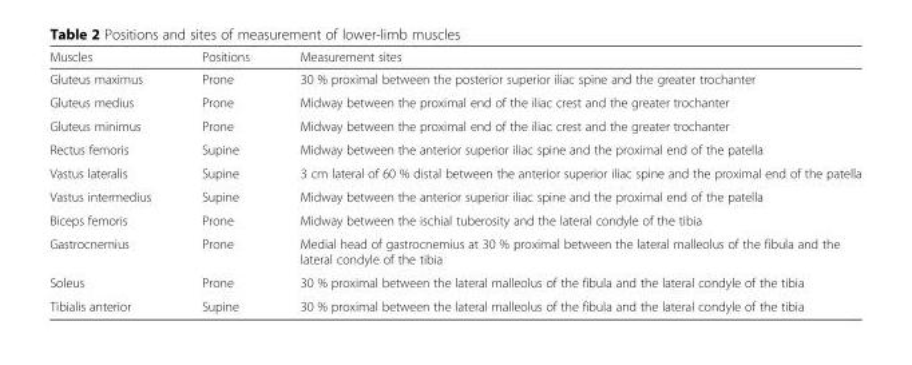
<table><thead><tr><td>Muscles</td><td>Positions</td><td>Measurement sites</td></tr></thead><tbody><tr><td>Gluteus maximus</td><td>Prone</td><td>30 % proximal between the posterior superior iliac spine and the greater trochanter</td></tr><tr><td>Gluteus medius</td><td>Prone</td><td>Midway between the proximal end of the iliac crest and the greater trochanter</td></tr><tr><td>Gluteus minimus</td><td>Prone</td><td>Midway between the proximal end of the iliac crest and the greater trochanter</td></tr><tr><td>Rectus femoris</td><td>Supine</td><td>Midway between the anterior superior iliac spine and the proximal end of the patella</td></tr><tr><td>Vastus lateralis</td><td>Supine</td><td>3 cm lateral of 60 % distal between the anterior superior iliac spine and the proximal end of the patella</td></tr><tr><td>Vastus intermedius</td><td>Supine</td><td>Midway between the anterior superior iliac spine and the proximal end of the patella</td></tr><tr><td>Biceps femoris</td><td>Prone</td><td>Midway between the ischial tuberosity and the lateral condyle of the tibia</td></tr><tr><td>Gastrocnemius</td><td>Prone</td><td>Medial head of gastrocnemius at 30 % proximal between the lateral malleolus of the fibula and the lateral condyle of the tibia</td></tr><tr><td>Soleus</td><td>Prone</td><td>30 % proximal between the lateral malleolus of the fibula and the lateral condyle of the tibia</td></tr><tr><td>Tibialis anterior</td><td>Supine</td><td>30 % proximal between the lateral malleolus of the fibula and the lateral condyle of the tibia</td></tr></tbody></table>